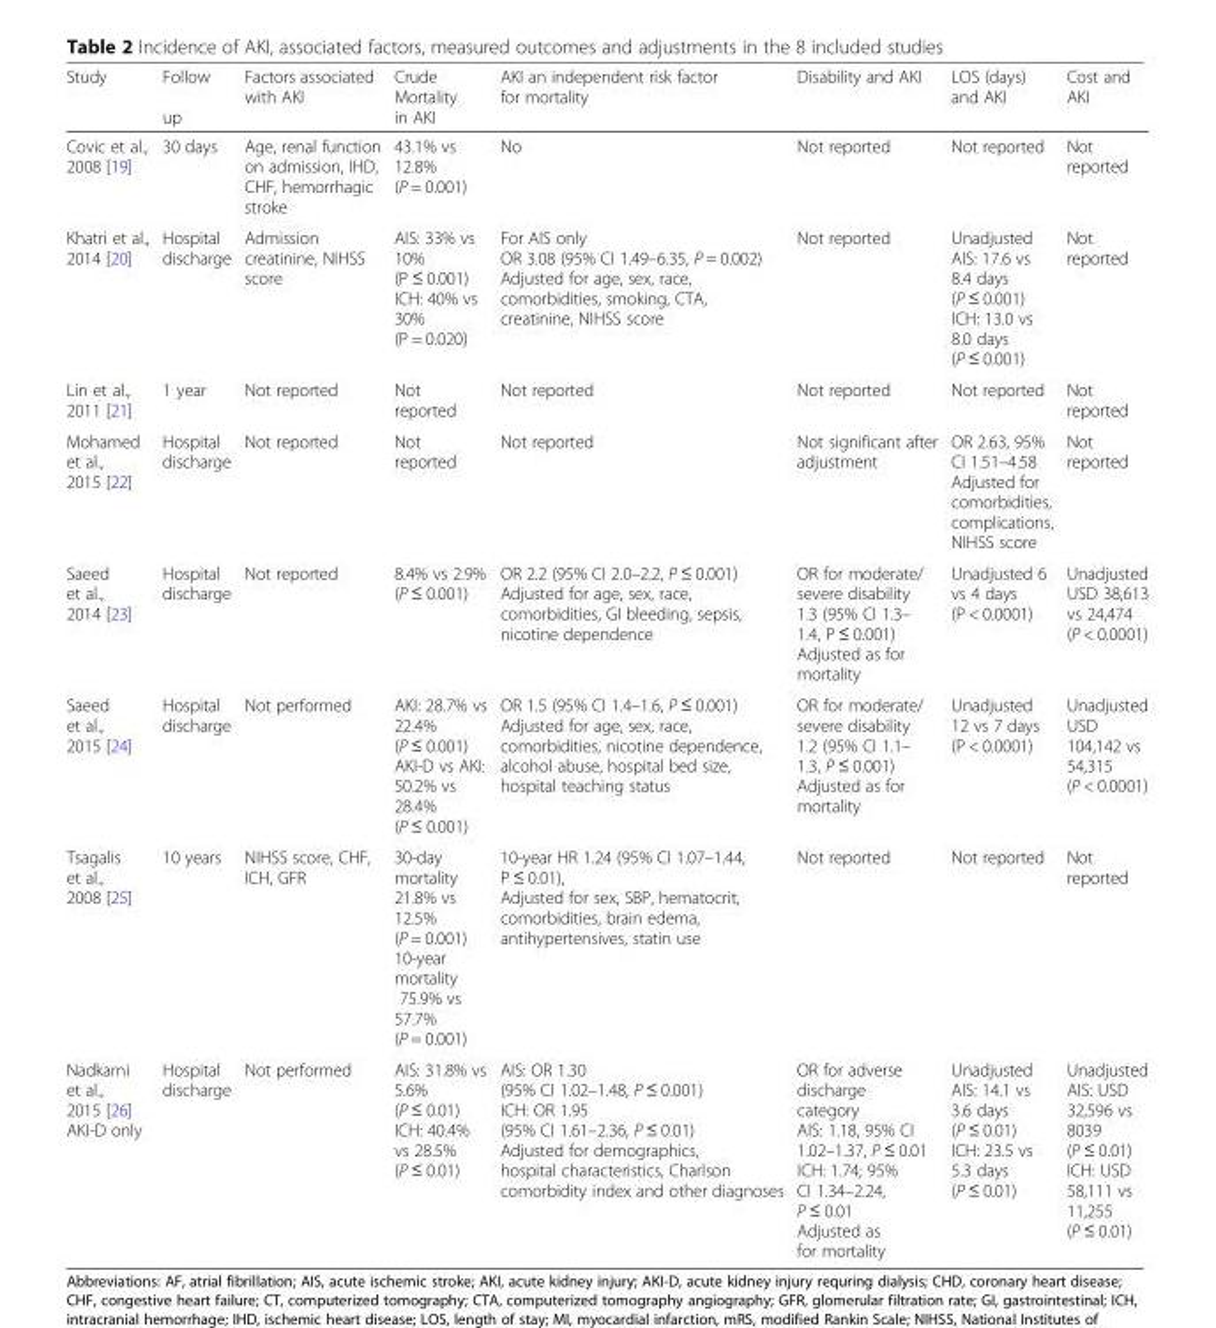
<table><thead><tr><td>Study</td><td>Follow up</td><td>Factors associated with AKI</td><td>Crude Mortality in AKI</td><td>AKI an independent risk factor for mortality</td><td>Disability and AKI</td><td>LOS (days) and AKI</td><td>Cost and AKI</td></tr></thead><tbody><tr><td>Covic et al., 2008 [19]</td><td>30 days</td><td>Age, renal function on admission, IHD, CHF, hemorrhagic stroke</td><td>43.1% vs 12.8% (P = 0.001)</td><td>No</td><td>Not reported</td><td>Not reported</td><td>Not reported</td></tr><tr><td>Khatri et al., 2014 [20]</td><td>Hospital discharge</td><td>Admission creatinine, NIHSS score</td><td>AIS: 33% vs 10% (P ≤ 0.001) ICH: 40% vs 30% (P = 0.020)</td><td>For AIS only OR 3.08 (95% CI 1.49–6.35, P = 0.002) Adjusted for age, sex, race, comorbidities, smoking, CTA, creatinine, NIHSS score</td><td>Not reported</td><td>Unadjusted AIS: 17.6 vs 8.4 days (P ≤ 0.001) ICH: 13.0 vs 8.0 days (P ≤ 0.001)</td><td>Not reported</td></tr><tr><td>Lin et al., 2011 [21]</td><td>1 year</td><td>Not reported</td><td>Not reported</td><td>Not reported</td><td>Not reported</td><td>Not reported</td><td>Not reported</td></tr><tr><td>Mohamed et al., 2015 [22]</td><td>Hospital discharge</td><td>Not reported</td><td>Not reported</td><td>Not reported</td><td>Not significant after adjustment</td><td>OR 2.63, 95% CI 1.51–4.58 Adjusted for comorbidities, complications, NIHSS score</td><td>Not reported</td></tr><tr><td>Saeed et al., 2014 [23]</td><td>Hospital discharge</td><td>Not reported</td><td>8.4% vs 2.9% (P ≤ 0.001)</td><td>OR 2.2 (95% CI 2.0–2.2, P ≤ 0.001) Adjusted for age, sex, race, comorbidities, GI bleeding, sepsis, nicotine dependence</td><td>OR for moderate/ severe disability 1.3 (95% CI 1.3– 1.4, P ≤ 0.001) Adjusted as for mortality</td><td>Unadjusted 6 vs 4 days (P &lt; 0.0001)</td><td>Unadjusted USD 38,613 vs 24,474 (P &lt; 0.0001)</td></tr><tr><td>Saeed et al., 2015 [24]</td><td>Hospital discharge</td><td>Not performed</td><td>AKI: 28.7% vs 22.4% (P ≤ 0.001) AKI-D vs AKI: 50.2% vs 28.4% (P ≤ 0.001)</td><td>OR 1.5 (95% CI 1.4–1.6, P ≤ 0.001) Adjusted for age, sex, race, comorbidities, nicotine dependence, alcohol abuse, hospital bed size, hospital teaching status</td><td>OR for moderate/ severe disability 1.2 (95% CI 1.1– 1.3, P ≤ 0.001) Adjusted as for mortality</td><td>Unadjusted 12 vs 7 days (P &lt; 0.0001)</td><td>Unadjusted USD 104,142 vs 54,315 (P &lt; 0.0001)</td></tr><tr><td>Tsagalis et al., 2008 [25]</td><td>10 years</td><td>NIHSS score, CHF, ICH, GFR</td><td>30-day mortality 21.8% vs 12.5% (P = 0.001) 10-year mortality 75.9% vs 57.7% (P = 0.001)</td><td>10-year HR 1.24 (95% CI 1.07–1.44, P ≤ 0.01), Adjusted for sex, SBP, hematocrit, comorbidities, brain edema, antihypertensives, statin use</td><td>Not reported</td><td>Not reported</td><td>Not reported</td></tr><tr><td>Nadkarni et al., 2015 [26] AKI-D only</td><td>Hospital discharge</td><td>Not performed</td><td>AIS: 31.8% vs 5.6% (P ≤ 0.01) ICH: 40.4% vs 28.5% (P ≤ 0.01)</td><td>AIS: OR 1.30 (95% CI 1.02–1.48, P ≤ 0.001) ICH: OR 1.95 (95% CI 1.61–2.36, P ≤ 0.01) Adjusted for demographics, hospital characteristics, Charlson comorbidity index and other diagnoses</td><td>OR for adverse discharge category AIS: 1.18, 95% CI 1.02–1.37, P ≤ 0.01 ICH: 1.74; 95% CI 1.34–2.24, P ≤ 0.01 Adjusted as for mortality</td><td>Unadjusted AIS: 14.1 vs 3.6 days (P ≤ 0.01) ICH: 23.5 vs 5.3 days (P ≤ 0.01)</td><td>Unadjusted AIS: USD 32,596 vs 8039 (P ≤ 0.01) ICH: USD 58,111 vs 11,255 (P ≤ 0.01)</td></tr></tbody></table>